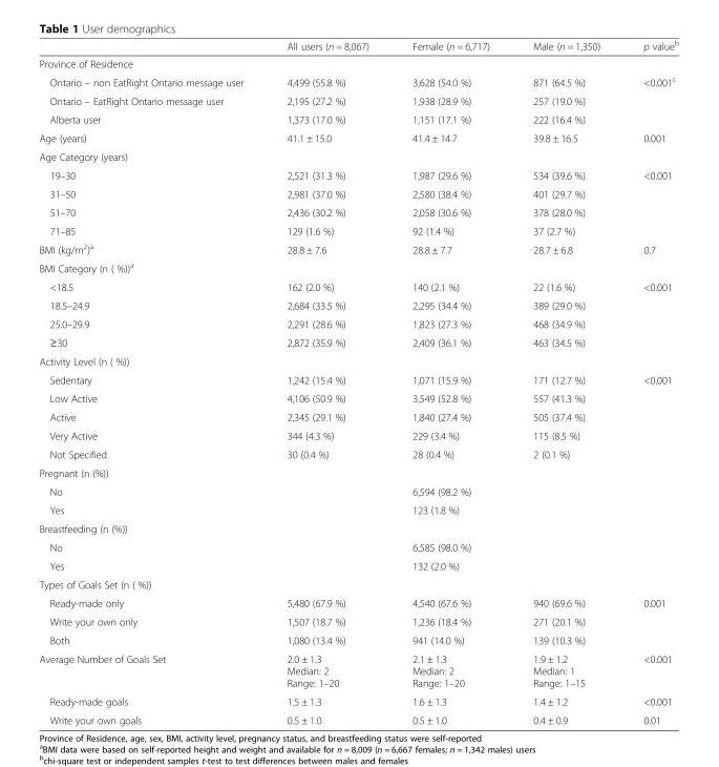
<table><thead><tr><td></td><td>All users (n = 8,067)</td><td>Female (n = 6,717)</td><td>Male (n = 1,350)</td><td>p value<sup>b</sup></td></tr></thead><tbody><tr><td colspan="5">Province of Residence</td></tr><tr><td>Ontario – non EatRight Ontario message user</td><td>4,499 (55.8 %)</td><td>3,628 (54.0 %)</td><td>871 (64.5 %)</td><td rowspan="2">&lt;0.001<sup>c</sup></td></tr><tr><td>Ontario – EatRight Ontario message user</td><td>2,195 (27.2 %)</td><td>1,938 (28.9 %)</td><td>257 (19.0 %)</td></tr><tr><td>Alberta user</td><td>1,373 (17.0 %)</td><td>1,151 (17.1 %)</td><td>222 (16.4 %)</td><td></td></tr><tr><td>Age (years)</td><td>41.1 ± 15.0</td><td>41.4 ± 14.7</td><td>39.8 ± 16.5</td><td>0.001</td></tr><tr><td colspan="5">Age Category (years)</td></tr><tr><td>19–30</td><td>2,521 (31.3 %)</td><td>1,987 (29.6 %)</td><td>534 (39.6 %)</td><td rowspan="4">&lt;0.001</td></tr><tr><td>31–50</td><td>2,981 (37.0 %)</td><td>2,580 (38.4 %)</td><td>401 (29.7 %)</td></tr><tr><td>51–70</td><td>2,436 (30.2 %)</td><td>2,058 (30.6 %)</td><td>378 (28.0 %)</td></tr><tr><td>71–85</td><td>129 (1.6 %)</td><td>92 (1.4 %)</td><td>37 (2.7 %)</td></tr><tr><td>BMI (kg/m<sup>2</sup>)<sup>a</sup></td><td>28.8 ± 7.6</td><td>28.8 ± 7.7</td><td>28.7 ± 6.8</td><td>0.7</td></tr><tr><td colspan="5">BMI Category (n ( %))<sup>a</sup></td></tr><tr><td>&lt;18.5</td><td>162 (2.0 %)</td><td>140 (2.1 %)</td><td>22 (1.6 %)</td><td rowspan="4">&lt;0.001</td></tr><tr><td>18.5–24.9</td><td>2,684 (33.5 %)</td><td>2,295 (34.4 %)</td><td>389 (29.0 %)</td></tr><tr><td>25.0–29.9</td><td>2,291 (28.6 %)</td><td>1,823 (27.3 %)</td><td>468 (34.9 %)</td></tr><tr><td>≥30</td><td>2,872 (35.9 %)</td><td>2,409 (36.1 %)</td><td>463 (34.5 %)</td></tr><tr><td colspan="5">Activity Level (n ( %))</td></tr><tr><td>Sedentary</td><td>1,242 (15.4 %)</td><td>1,071 (15.9 %)</td><td>171 (12.7 %)</td><td rowspan="5">&lt;0.001</td></tr><tr><td>Low Active</td><td>4,106 (50.9 %)</td><td>3,549 (52.8 %)</td><td>557 (41.3 %)</td></tr><tr><td>Active</td><td>2,345 (29.1 %)</td><td>1,840 (27.4 %)</td><td>505 (37.4 %)</td></tr><tr><td>Very Active</td><td>344 (4.3 %)</td><td>229 (3.4 %)</td><td>115 (8.5 %)</td></tr><tr><td>Not Specified</td><td>30 (0.4 %)</td><td>28 (0.4 %)</td><td>2 (0.1 %)</td></tr><tr><td colspan="5">Pregnant (n (%))</td></tr><tr><td>No</td><td></td><td>6,594 (98.2 %)</td><td></td><td></td></tr><tr><td>Yes</td><td></td><td>123 (1.8 %)</td><td></td><td></td></tr><tr><td colspan="5">Breastfeeding (n (%))</td></tr><tr><td>No</td><td></td><td>6,585 (98.0 %)</td><td></td><td></td></tr><tr><td>Yes</td><td></td><td>132 (2.0 %)</td><td></td><td></td></tr><tr><td colspan="5">Types of Goals Set (n ( %))</td></tr><tr><td>Ready-made only</td><td>5,480 (67.9 %)</td><td>4,540 (67.6 %)</td><td>940 (69.6 %)</td><td rowspan="3">0.001</td></tr><tr><td>Write your own only</td><td>1,507 (18.7 %)</td><td>1,236 (18.4 %)</td><td>271 (20.1 %)</td></tr><tr><td>Both</td><td>1,080 (13.4 %)</td><td>941 (14.0 %)</td><td>139 (10.3 %)</td></tr><tr><td>Average Number of Goals Set</td><td>2.0 ± 1.3 Median: 2 Range: 1–20</td><td>2.1 ± 1.3 Median: 2 Range: 1–20</td><td>1.9 ± 1.2 Median: 1 Range: 1–15</td><td>&lt;0.001</td></tr><tr><td>Ready-made goals</td><td>1.5 ± 1.3</td><td>1.6 ± 1.3</td><td>1.4 ± 1.2</td><td>&lt;0.001</td></tr><tr><td>Write your own goals</td><td>0.5 ± 1.0</td><td>0.5 ± 1.0</td><td>0.4 ± 0.9</td><td>0.01</td></tr></tbody></table>